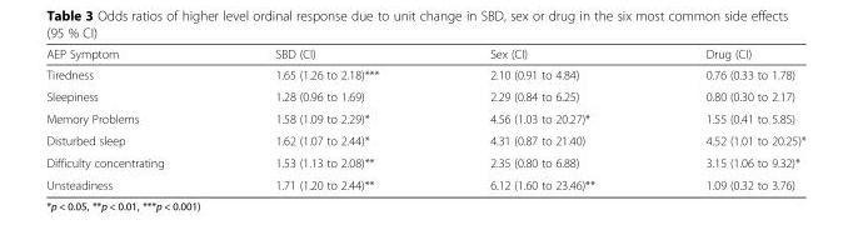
<table><thead><tr><td>AEP Symptom</td><td>SBD (CI)</td><td>Sex (CI)</td><td>Drug (CI)</td></tr></thead><tbody><tr><td>Tiredness</td><td>1.65 (1.26 to 2.18)***</td><td>2.10 (0.91 to 4.84)</td><td>0.76 (0.33 to 1.78)</td></tr><tr><td>Sleepiness</td><td>1.28 (0.96 to 1.69)</td><td>2.29 (0.84 to 6.25)</td><td>0.80 (0.30 to 2.17)</td></tr><tr><td>Memory Problems</td><td>1.58 (1.09 to 2.29)*</td><td>4.56 (1.03 to 20.27)*</td><td>1.55 (0.41 to 5.85)</td></tr><tr><td>Disturbed sleep</td><td>1.62 (1.07 to 2.44)*</td><td>4.31 (0.87 to 21.40)</td><td>4.52 (1.01 to 20.25)*</td></tr><tr><td>Difficulty concentrating</td><td>1.53 (1.13 to 2.08)**</td><td>2.35 (0.80 to 6.88)</td><td>3.15 (1.06 to 9.32)*</td></tr><tr><td>Unsteadiness</td><td>1.71 (1.20 to 2.44)**</td><td>6.12 (1.60 to 23.46)**</td><td>1.09 (0.32 to 3.76)</td></tr></tbody></table>